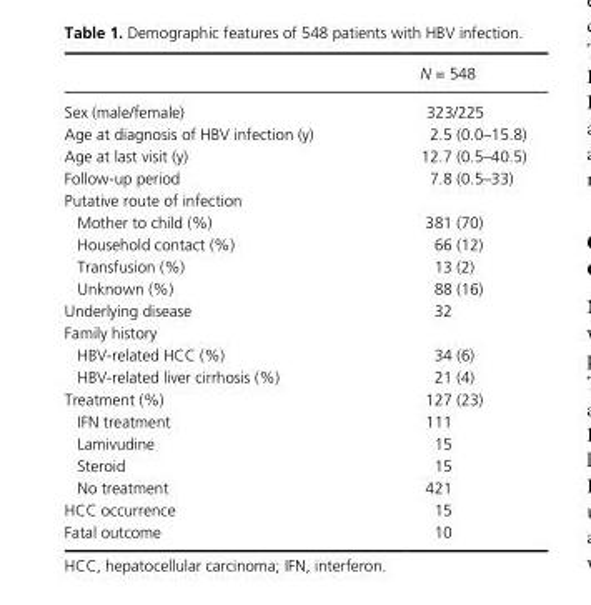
<table><thead><tr><td></td><td>N = 548</td></tr></thead><tbody><tr><td>Sex (male/female)</td><td>323/225</td></tr><tr><td>Age at diagnosis of HBV infection (y)</td><td>2.5 (0.0–15.8)</td></tr><tr><td>Age at last visit (y)</td><td>12.7 (0.5–40.5)</td></tr><tr><td>Follow- up period</td><td>7.8 (0.5–33)</td></tr><tr><td colspan="2">Putative route of infection</td></tr><tr><td>Mother to child (%)</td><td>381 (70)</td></tr><tr><td>Household contact (%)</td><td>66 (12)</td></tr><tr><td>Transfusion (%)</td><td>13 (2)</td></tr><tr><td>Unknown (%)</td><td>88 (16)</td></tr><tr><td>Underlying disease</td><td>32</td></tr><tr><td colspan="2">Family history</td></tr><tr><td>HBV- related HCC (%)</td><td>34 (6)</td></tr><tr><td>HBV- related liver cirrhosis (%)</td><td>21 (4)</td></tr><tr><td>Treatment (%)</td><td>127 (23)</td></tr><tr><td>IFN treatment</td><td>111</td></tr><tr><td>Lamivudine</td><td>15</td></tr><tr><td>Steroid</td><td>15</td></tr><tr><td>No treatment</td><td>421</td></tr><tr><td>HCC occurrence</td><td>15</td></tr><tr><td>Fatal outcome</td><td>10</td></tr></tbody></table>